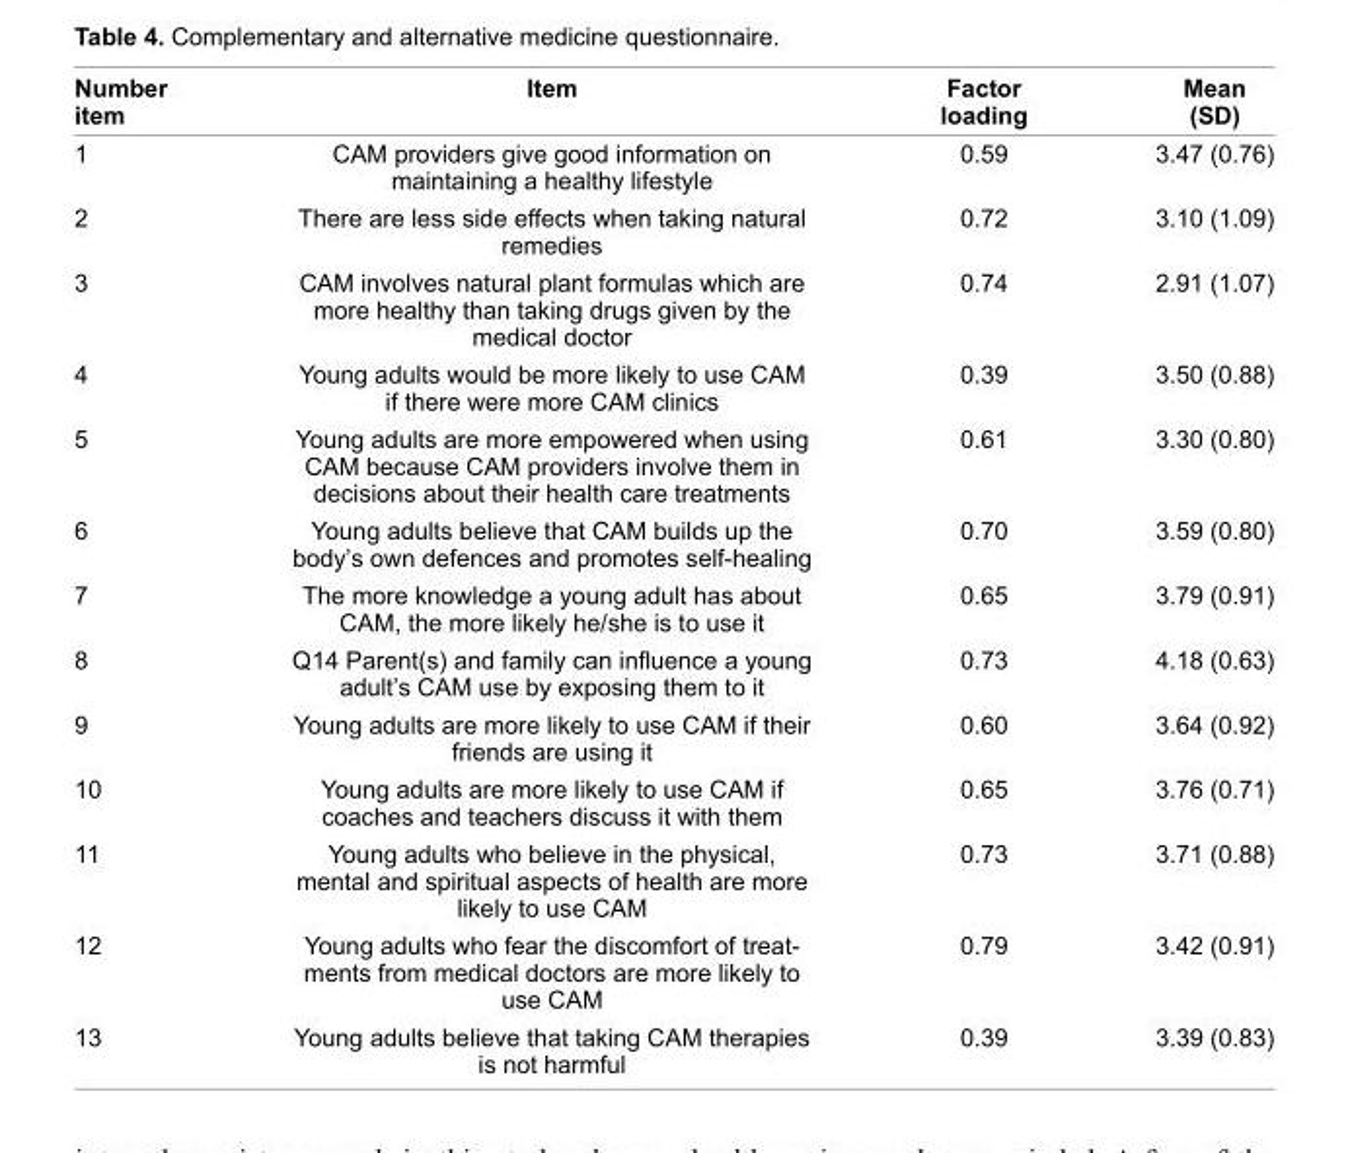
<table><thead><tr><td>Number item</td><td>Item</td><td>Factor loading</td><td>Mean (SD)</td></tr></thead><tbody><tr><td>1</td><td>CAM providers give good information on maintaining a healthy lifestyle</td><td>0.59</td><td>3.47 (0.76)</td></tr><tr><td>2</td><td>There are less side effects when taking natural remedies</td><td>0.72</td><td>3.10 (1.09)</td></tr><tr><td>3</td><td>CAM involves natural plant formulas which are more healthy than taking drugs given by the medical doctor</td><td>0.74</td><td>2.91 (1.07)</td></tr><tr><td>4</td><td>Young adults would be more likely to use CAM if there were more CAM clinics</td><td>0.39</td><td>3.50 (0.88)</td></tr><tr><td>5</td><td>Young adults are more empowered when using CAM because CAM providers involve them in decisions about their health care treatments</td><td>0.61</td><td>3.30 (0.80)</td></tr><tr><td>6</td><td>Young adults believe that CAM builds up the body’s own defences and promotes self-healing</td><td>0.70</td><td>3.59 (0.80)</td></tr><tr><td>7</td><td>The more knowledge a young adult has about CAM, the more likely he/she is to use it</td><td>0.65</td><td>3.79 (0.91)</td></tr><tr><td>8</td><td>Q14 Parent(s) and family can infl uence a young adult’s CAM use by exposing them to it</td><td>0.73</td><td>4.18 (0.63)</td></tr><tr><td>9</td><td>Young adults are more likely to use CAM if their friends are using it</td><td>0.60</td><td>3.64 (0.92)</td></tr><tr><td>10</td><td>Young adults are more likely to use CAM if coaches and teachers discuss it with them</td><td>0.65</td><td>3.76 (0.71)</td></tr><tr><td>11</td><td>Young adults who believe in the physical, mental and spiritual aspects of health are more likely to use CAM</td><td>0.73</td><td>3.71 (0.88)</td></tr><tr><td>12</td><td>Young adults who fear the discomfort of treat- ments from medical doctors are more likely to use CAM</td><td>0.79</td><td>3.42 (0.91)</td></tr><tr><td>13</td><td>Young adults believe that taking CAM therapies is not harmful</td><td>0.39</td><td>3.39 (0.83)</td></tr></tbody></table>